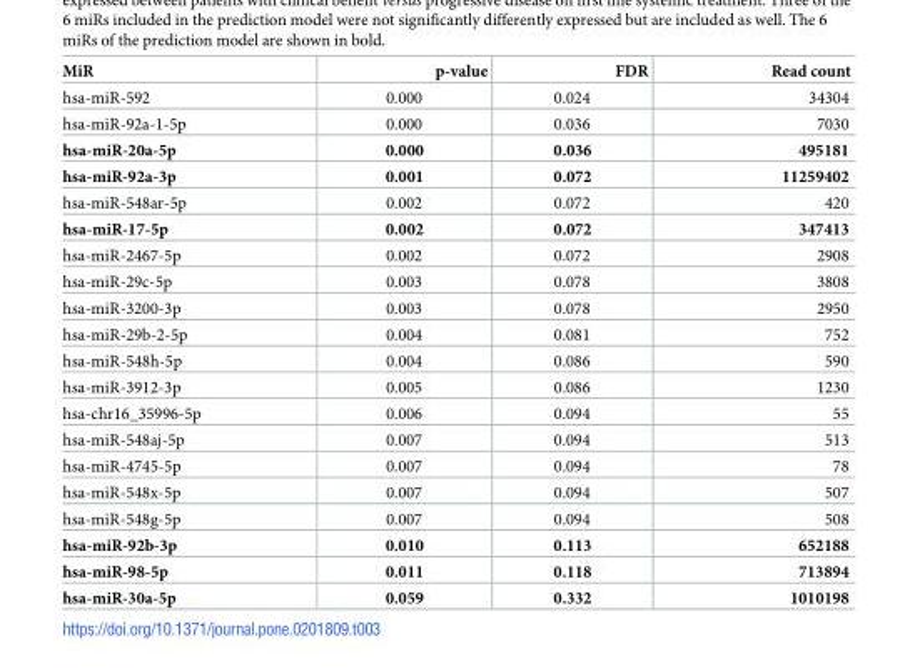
<table><thead><tr><td>MiR</td><td>p-value</td><td>FDR</td><td>Read count</td></tr></thead><tbody><tr><td>hsa-miR-592</td><td>0.000</td><td>0.024</td><td>34304</td></tr><tr><td>hsa-miR-92a-1-5p</td><td>0.000</td><td>0.036</td><td>7030</td></tr><tr><td>hsa-miR-20a-5p</td><td>0.000</td><td>0.036</td><td>495181</td></tr><tr><td>hsa-miR-92a-3p</td><td>0.001</td><td>0.072</td><td>11259402</td></tr><tr><td>hsa-miR-548ar-5p</td><td>0.002</td><td>0.072</td><td>420</td></tr><tr><td>hsa-miR-17-5p</td><td>0.002</td><td>0.072</td><td>347413</td></tr><tr><td>hsa-miR-2467-5p</td><td>0.002</td><td>0.072</td><td>2908</td></tr><tr><td>hsa-miR-29c-5p</td><td>0.003</td><td>0.078</td><td>3808</td></tr><tr><td>hsa-miR-3200-3p</td><td>0.003</td><td>0.078</td><td>2950</td></tr><tr><td>hsa-miR-29b-2-5p</td><td>0.004</td><td>0.081</td><td>752</td></tr><tr><td>hsa-miR-548h-5p</td><td>0.004</td><td>0.086</td><td>590</td></tr><tr><td>hsa-miR-3912-3p</td><td>0.005</td><td>0.086</td><td>1230</td></tr><tr><td>hsa-chr16_35996-5p</td><td>0.006</td><td>0.094</td><td>55</td></tr><tr><td>hsa-miR-548aj-5p</td><td>0.007</td><td>0.094</td><td>513</td></tr><tr><td>hsa-miR-4745-5p</td><td>0.007</td><td>0.094</td><td>78</td></tr><tr><td>hsa-miR-548x-5p</td><td>0.007</td><td>0.094</td><td>507</td></tr><tr><td>hsa-miR-548g-5p</td><td>0.007</td><td>0.094</td><td>508</td></tr><tr><td>hsa-miR-92b-3p</td><td>0.010</td><td>0.113</td><td>652188</td></tr><tr><td>hsa-miR-98-5p</td><td>0.011</td><td>0.118</td><td>713894</td></tr><tr><td>hsa-miR-30a-5p</td><td>0.059</td><td>0.332</td><td>1010198</td></tr></tbody></table>